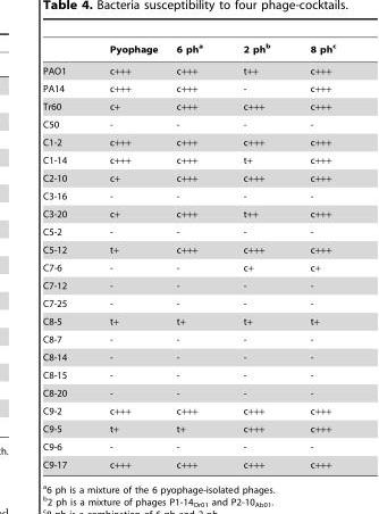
<table><thead><tr><td></td><td>Pyophage</td><td>6 ph<sup>a</sup></td><td>2 ph<sup>b</sup></td><td>8 ph<sup>c</sup></td></tr></thead><tbody><tr><td>PAO1</td><td>c+++</td><td>c+++</td><td>t++</td><td>c+++</td></tr><tr><td>PA14</td><td>c+++</td><td>c+++</td><td>-</td><td>c+++</td></tr><tr><td>Tr60</td><td>c+</td><td>c+++</td><td>c+++</td><td>c+++</td></tr><tr><td>C50</td><td>-</td><td>-</td><td>-</td><td>-</td></tr><tr><td>C1-2</td><td>c+++</td><td>c+++</td><td>c+++</td><td>c+++</td></tr><tr><td>C1-14</td><td>c+++</td><td>c+++</td><td>t+</td><td>c+++</td></tr><tr><td>C2-10</td><td>c+</td><td>c+++</td><td>c+++</td><td>c+++</td></tr><tr><td>C3-16</td><td>-</td><td>-</td><td>-</td><td>-</td></tr><tr><td>C3-20</td><td>c+</td><td>c+++</td><td>t++</td><td>c+++</td></tr><tr><td>C5-2</td><td>-</td><td>-</td><td>-</td><td>-</td></tr><tr><td>C5-12</td><td>t+</td><td>c+++</td><td>c+++</td><td>c+++</td></tr><tr><td>C7-6</td><td>-</td><td>-</td><td>c+</td><td>c+</td></tr><tr><td>C7-12</td><td>-</td><td>-</td><td>-</td><td>-</td></tr><tr><td>C7-25</td><td>-</td><td>-</td><td>-</td><td>-</td></tr><tr><td>C8-5</td><td>t+</td><td>t+</td><td>t+</td><td>t+</td></tr><tr><td>C8-7</td><td>-</td><td>-</td><td>-</td><td>-</td></tr><tr><td>C8-14</td><td>-</td><td>-</td><td>-</td><td>-</td></tr><tr><td>C8-15</td><td>-</td><td>-</td><td>-</td><td>-</td></tr><tr><td>C8-20</td><td>-</td><td>-</td><td>-</td><td>-</td></tr><tr><td>C9-2</td><td>c+++</td><td>c+++</td><td>c+++</td><td>c+++</td></tr><tr><td>C9-5</td><td>t+</td><td>t+</td><td>c+++</td><td>c+++</td></tr><tr><td>C9-6</td><td>-</td><td>-</td><td>-</td><td>-</td></tr><tr><td>C9-17</td><td>c+++</td><td>c+++</td><td>c+++</td><td>c+++</td></tr></tbody></table>